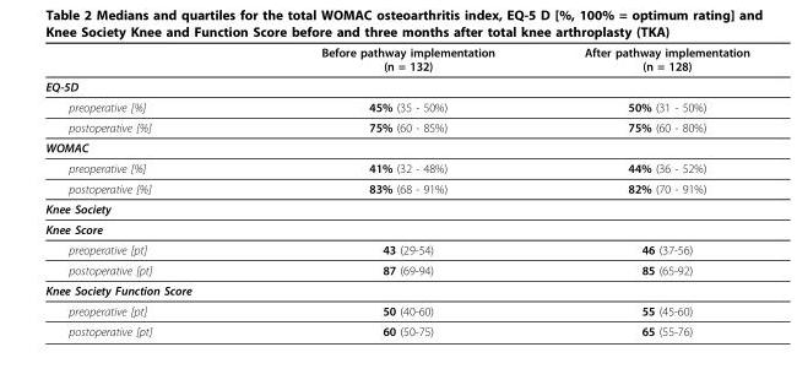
<table><thead><tr><td></td><td>Before pathway implementation (n = 132)</td><td>After pathway implementation (n = 128)</td></tr></thead><tbody><tr><td colspan="3">EQ-5D</td></tr><tr><td>preoperative [%]</td><td>45% (35 - 50%)</td><td>50% (31 - 50%)</td></tr><tr><td>postoperative [%]</td><td>75% (60 - 85%)</td><td>75% (60 - 80%)</td></tr><tr><td colspan="3">WOMAC</td></tr><tr><td>preoperative [%]</td><td>41% (32 - 48%)</td><td>44% (36 - 52%)</td></tr><tr><td>postoperative [%]</td><td>83% (68 - 91%)</td><td>82% (70 - 91%)</td></tr><tr><td colspan="3">Knee Society</td></tr><tr><td colspan="3">Knee Score</td></tr><tr><td>preoperative [pt]</td><td>43 (29-54)</td><td>46 (37-56)</td></tr><tr><td>postoperative [pt]</td><td>87 (69-94)</td><td>85 (65-92)</td></tr><tr><td colspan="3">Knee Society Function Score</td></tr><tr><td>preoperative [pt]</td><td>50 (40-60)</td><td>55 (45-60)</td></tr><tr><td>postoperative [pt]</td><td>60 (50-75)</td><td>65 (55-76)</td></tr></tbody></table>